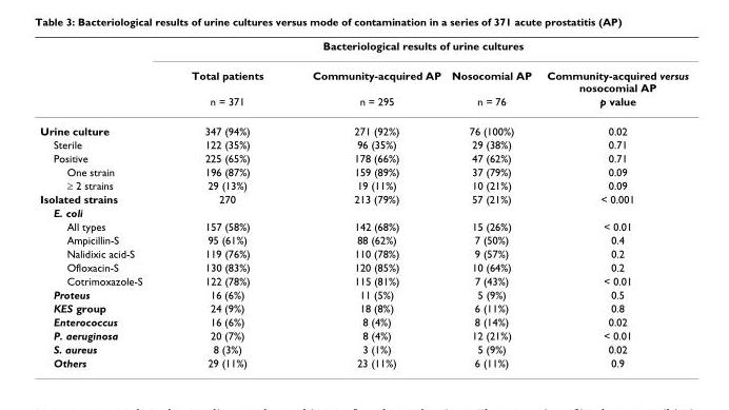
<table><thead><tr><td rowspan="3"></td><td colspan="4">Bacteriological results of urine cultures</td></tr><tr><td rowspan="2">Total patients n = 371</td><td rowspan="2">Community-acquired AP n = 295</td><td rowspan="2">Nosocomial AP n = 76</td><td rowspan="2">Community-acquired versus nosocomial AP p value</td></tr><tr></tr></thead><tbody><tr><td>Urine culture</td><td>347 (94%)</td><td>271 (92%)</td><td>76 (100%)</td><td>0.02</td></tr><tr><td>Sterile</td><td>122 (35%)</td><td>96 (35%)</td><td>29 (38%)</td><td>0.71</td></tr><tr><td>Positive</td><td>225 (65%)</td><td>178 (66%)</td><td>47 (62%)</td><td>0.71</td></tr><tr><td>One strain</td><td>196 (87%)</td><td>159 (89%)</td><td>37 (79%)</td><td>0.09</td></tr><tr><td>≥ 2 strains</td><td>29 (13%)</td><td>19 (11%)</td><td>10 (21%)</td><td>0.09</td></tr><tr><td>Isolated strains</td><td>270</td><td>213 (79%)</td><td>57 (21%)</td><td>&lt; 0.001</td></tr><tr><td colspan="5">E. coli</td></tr><tr><td>All types</td><td>157 (58%)</td><td>142 (68%)</td><td>15 (26%)</td><td>&lt; 0.01</td></tr><tr><td>Ampicillin-S</td><td>95 (61%)</td><td>88 (62%)</td><td>7 (50%)</td><td>0.4</td></tr><tr><td>Nalidixic acid-S</td><td>119 (76%)</td><td>110 (78%)</td><td>9 (57%)</td><td>0.2</td></tr><tr><td>Ofloxacin-S</td><td>130 (83%)</td><td>120 (85%)</td><td>10 (64%)</td><td>0.2</td></tr><tr><td>Cotrimoxazole-S</td><td>122 (78%)</td><td>115 (81%)</td><td>7 (43%)</td><td>&lt; 0.01</td></tr><tr><td>Proteus</td><td>16 (6%)</td><td>11 (5%)</td><td>5 (9%)</td><td>0.5</td></tr><tr><td>KES group</td><td>24 (9%)</td><td>18 (8%)</td><td>6 (11%)</td><td>0.8</td></tr><tr><td>Enterococcus</td><td>16 (6%)</td><td>8 (4%)</td><td>8 (14%)</td><td>0.02</td></tr><tr><td>P. aeruginosa</td><td>20 (7%)</td><td>8 (4%)</td><td>12 (21%)</td><td>&lt; 0.01</td></tr><tr><td>S. aureus</td><td>8 (3%)</td><td>3 (1%)</td><td>5 (9%)</td><td>0.02</td></tr><tr><td>Others</td><td>29 (11%)</td><td>23 (11%)</td><td>6 (11%)</td><td>0.9</td></tr></tbody></table>